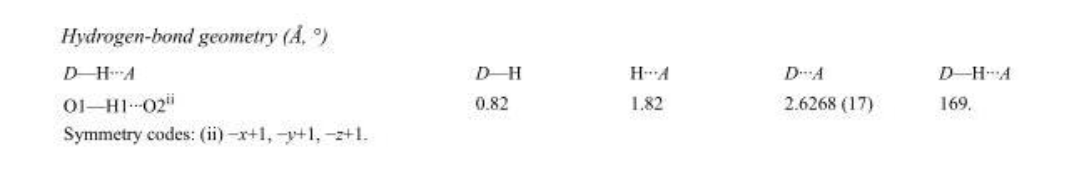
<table><tbody><tr><td>D—H···A</td><td>D—H</td><td>H···A</td><td>D···A</td><td>D—H···A</td></tr><tr><td>O1—H1···O2<sup>ii</sup></td><td>0.82</td><td>1.82</td><td>2.6268 (17)</td><td>169.</td></tr></tbody></table>